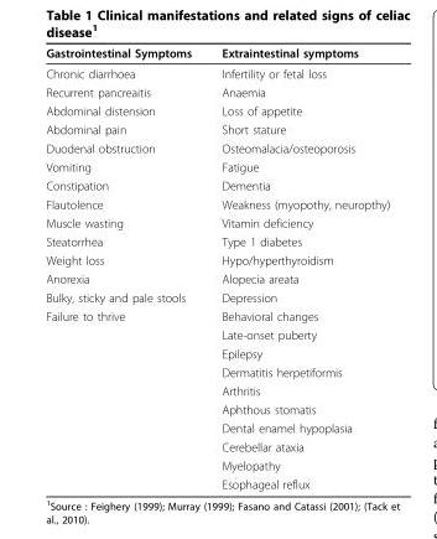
<table><thead><tr><td>Gastrointestinal Symptoms</td><td>Extraintestinal symptoms</td></tr></thead><tbody><tr><td>Chronic diarrhoea</td><td>Infertility or fetal loss</td></tr><tr><td>Recurrent pancreaitis</td><td>Anaemia</td></tr><tr><td>Abdominal distension</td><td>Loss of appetite</td></tr><tr><td>Abdominal pain</td><td>Short stature</td></tr><tr><td>Duodenal obstruction</td><td>Osteomalacia/osteoporosis</td></tr><tr><td>Vomiting</td><td>Fatigue</td></tr><tr><td>Constipation</td><td>Dementia</td></tr><tr><td>Flautolence</td><td>Weakness (myopothy, neuropthy)</td></tr><tr><td>Muscle wasting</td><td>Vitamin deficiency</td></tr><tr><td>Steatorrhea</td><td>Type 1 diabetes</td></tr><tr><td>Weight loss</td><td>Hypo/hyperthyroidism</td></tr><tr><td>Anorexia</td><td>Alopecia areata</td></tr><tr><td>Bulky, sticky and pale stools</td><td>Depression</td></tr><tr><td rowspan="10">Failure to thrive</td><td>Behavioral changes</td></tr><tr><td>Late-onset puberty</td></tr><tr><td>Epilepsy</td></tr><tr><td>Dermatitis herpetiformis</td></tr><tr><td>Arthritis</td></tr><tr><td>Aphthous stomatis</td></tr><tr><td>Dental enamel hypoplasia</td></tr><tr><td>Cerebellar ataxia</td></tr><tr><td>Myelopathy</td></tr><tr><td>Esophageal reflux</td></tr></tbody></table>